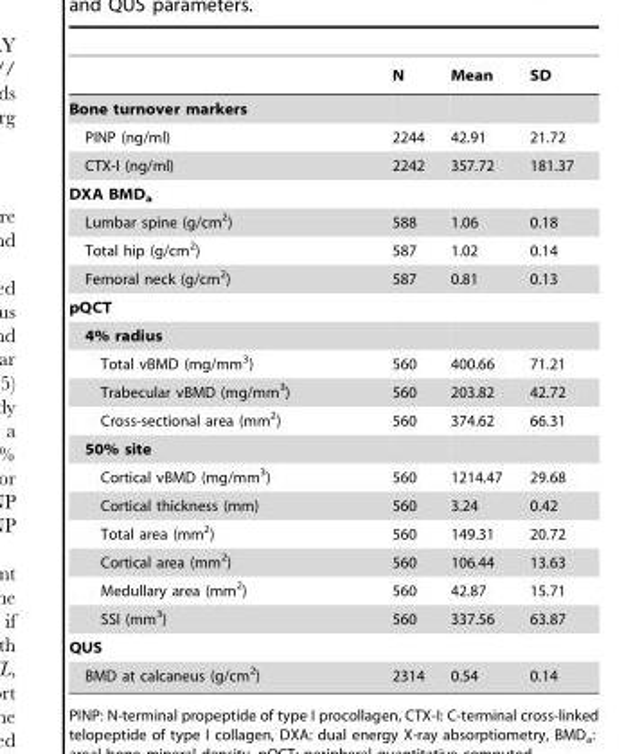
<table><thead><tr><td></td><td>N</td><td>Mean</td><td>SD</td></tr></thead><tbody><tr><td colspan="4">Bone turnover markers</td></tr><tr><td>PINP (ng/ml)</td><td>2244</td><td>42.91</td><td>21.72</td></tr><tr><td>CTX-I (ng/ml)</td><td>2242</td><td>357.72</td><td>181.37</td></tr><tr><td colspan="4">DXA BMD<sub>a</sub></td></tr><tr><td>Lumbar spine (g/cm<sup>2</sup>)</td><td>588</td><td>1.06</td><td>0.18</td></tr><tr><td>Total hip (g/cm<sup>2</sup>)</td><td>587</td><td>1.02</td><td>0.14</td></tr><tr><td>Femoral neck (g/cm<sup>2</sup>)</td><td>587</td><td>0.81</td><td>0.13</td></tr><tr><td colspan="4">pQCT</td></tr><tr><td colspan="4">4% radius</td></tr><tr><td>Total vBMD (mg/mm<sup>3</sup>)</td><td>560</td><td>400.66</td><td>71.21</td></tr><tr><td>Trabecular vBMD (mg/mm<sup>3</sup>)</td><td>560</td><td>203.82</td><td>42.72</td></tr><tr><td>Cross-sectional area (mm<sup>2</sup>)</td><td>560</td><td>374.62</td><td>66.31</td></tr><tr><td colspan="4">50% site</td></tr><tr><td>Cortical vBMD (mg/mm<sup>3</sup>)</td><td>560</td><td>1214.47</td><td>29.68</td></tr><tr><td>Cortical thickness (mm)</td><td>560</td><td>3.24</td><td>0.42</td></tr><tr><td>Total area (mm<sup>2</sup>)</td><td>560</td><td>149.31</td><td>20.72</td></tr><tr><td>Cortical area (mm<sup>2</sup>)</td><td>560</td><td>106.44</td><td>13.63</td></tr><tr><td>Medullary area (mm<sup>2</sup>)</td><td>560</td><td>42.87</td><td>15.71</td></tr><tr><td>SSI (mm<sup>3</sup>)</td><td>560</td><td>337.56</td><td>63.87</td></tr><tr><td colspan="4">QUS</td></tr><tr><td>BMD at calcaneus (g/cm<sup>2</sup>)</td><td>2314</td><td>0.54</td><td>0.14</td></tr></tbody></table>